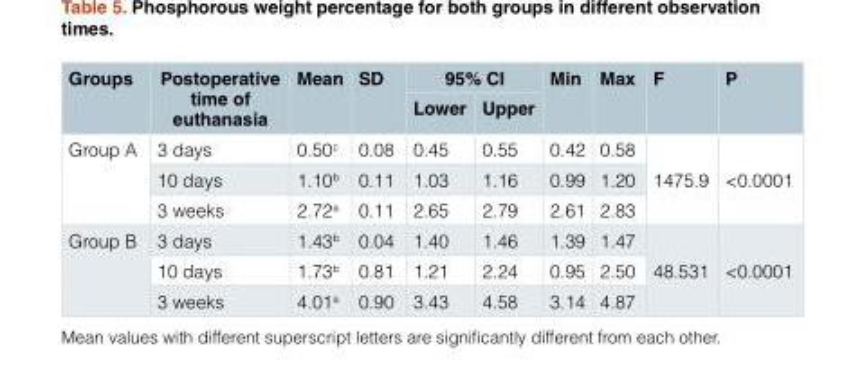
<table><thead><tr><td rowspan="2">Groups</td><td rowspan="2">Postoperative time of euthanasia</td><td rowspan="2">Mean</td><td rowspan="2">SD</td><td colspan="2">95% CI</td><td rowspan="2">Min</td><td rowspan="2">Max</td><td rowspan="2">F</td><td rowspan="2">P</td></tr><tr><td>Lower</td><td>Upper</td></tr></thead><tbody><tr><td rowspan="3">Group A</td><td>3 days</td><td>0.50<sup>c</sup></td><td>0.08</td><td>0.45</td><td>0.55</td><td>0.42</td><td>0.58</td><td rowspan="3">1475.9</td><td rowspan="3">&lt;0.0001</td></tr><tr><td>10 days</td><td>1.10<sup>b</sup></td><td>0.11</td><td>1.03</td><td>1.16</td><td>0.99</td><td>1.20</td></tr><tr><td>3 weeks</td><td>2.72<sup>a</sup></td><td>0.11</td><td>2.65</td><td>2.79</td><td>2.61</td><td>2.83</td></tr><tr><td rowspan="3">Group B</td><td>3 days</td><td>1.43<sup>b</sup></td><td>0.04</td><td>1.40</td><td>1.46</td><td>1.39</td><td>1.47</td><td rowspan="3">48.531</td><td rowspan="3">&lt;0.0001</td></tr><tr><td>10 days</td><td>1.73<sup>b</sup></td><td>0.81</td><td>1.21</td><td>2.24</td><td>0.95</td><td>2.50</td></tr><tr><td>3 weeks</td><td>4.01<sup>a</sup></td><td>0.90</td><td>3.43</td><td>4.58</td><td>3.14</td><td>4.87</td></tr></tbody></table>